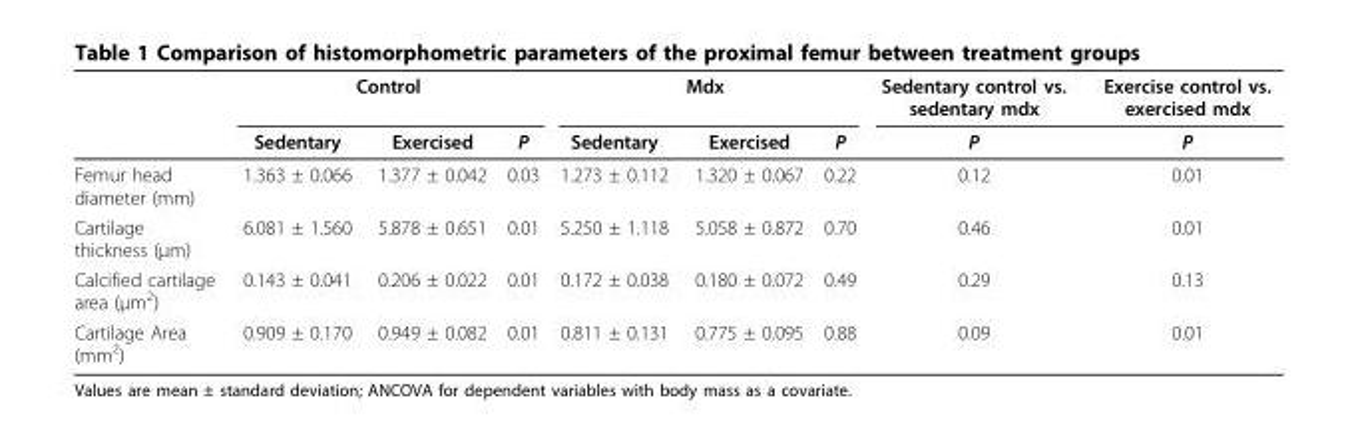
<table><thead><tr><td rowspan="2"></td><td colspan="3">Control</td><td colspan="3">Mdx</td><td rowspan="2">Sedentary control vs. sedentary mdx P</td><td rowspan="2">Exercise control vs. exercised mdx P</td></tr><tr><td>Sedentary</td><td>Exercised</td><td>P</td><td>Sedentary</td><td>Exercised</td><td>P</td></tr></thead><tbody><tr><td>Femur head diameter (mm)</td><td>1.363 ± 0.066</td><td>1.377 ± 0.042</td><td>0.03</td><td>1.273 ± 0.112</td><td>1.320 ± 0.067</td><td>0.22</td><td>0.12</td><td>0.01</td></tr><tr><td>Cartilage thickness (μm)</td><td>6.081 ± 1.560</td><td>5.878 ± 0.651</td><td>0.01</td><td>5.250 ± 1.118</td><td>5.058 ± 0.872</td><td>0.70</td><td>0.46</td><td>0.01</td></tr><tr><td>Calcified cartilage area (μm<sup>2</sup>)</td><td>0.143 ± 0.041</td><td>0.206 ± 0.022</td><td>0.01</td><td>0.172 ± 0.038</td><td>0.180 ± 0.072</td><td>0.49</td><td>0.29</td><td>0.13</td></tr><tr><td>Cartilage Area (mm<sup>2</sup>)</td><td>0.909 ± 0.170</td><td>0.949 ± 0.082</td><td>0.01</td><td>0.811 ± 0.131</td><td>0.775 ± 0.095</td><td>0.88</td><td>0.09</td><td>0.01</td></tr></tbody></table>